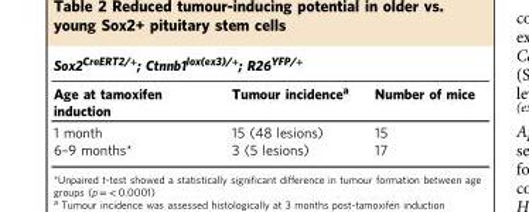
<table><thead><tr><td colspan="3">Sox2<sup>CreERT2/+</sup>; Ctnnb1<sup>lox(ex3)/+</sup>; R26<sup>YFP/+</sup></td></tr><tr><td>Age at tamoxifen induction</td><td>Tumour incidence<sup>a</sup></td><td>Number of mice</td></tr></thead><tbody><tr><td>1 month</td><td>15 (48 lesions)</td><td>15</td></tr><tr><td>6–9 months*</td><td>3 (5 lesions)</td><td>17</td></tr></tbody></table>